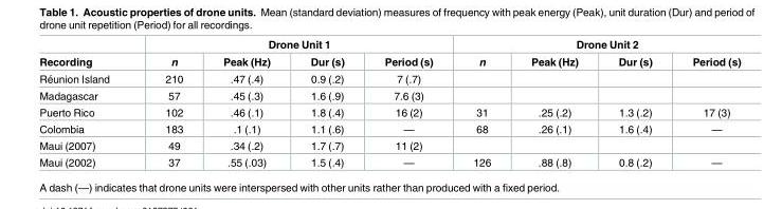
<table><thead><tr><td rowspan="2">Recording</td><td colspan="4">Drone Unit 1</td><td colspan="4">Drone Unit 2</td></tr><tr><td>n</td><td>Peak (Hz)</td><td>Dur (s)</td><td>Period (s)</td><td>n</td><td>Peak (Hz)</td><td>Dur (s)</td><td>Period (s)</td></tr></thead><tbody><tr><td>Re´union Island</td><td>210</td><td>.47 (.4)</td><td>0.9 (.2)</td><td>7 (.7)</td><td></td><td></td><td></td><td></td></tr><tr><td>Madagascar</td><td>57</td><td>.45 (.3)</td><td>1.6 (.9)</td><td>7.6 (3)</td><td></td><td></td><td></td><td></td></tr><tr><td>Puerto Rico</td><td>102</td><td>.46 (.1)</td><td>1.8 (.4)</td><td>16 (2)</td><td>31</td><td>.25 (.2)</td><td>1.3 (.2)</td><td>17 (3)</td></tr><tr><td>Colombia</td><td>183</td><td>.1 (.1)</td><td>1.1 (.6)</td><td>—</td><td>68</td><td>.26 (.1)</td><td>1.6 (.4)</td><td>—</td></tr><tr><td>Maui (2007)</td><td>49</td><td>.34 (.2)</td><td>1.7 (.7)</td><td>11 (2)</td><td></td><td></td><td></td><td></td></tr><tr><td>Maui (2002)</td><td>37</td><td>.55 (.03)</td><td>1.5 (.4)</td><td>—</td><td>126</td><td>.88 (.8)</td><td>0.8 (.2)</td><td>—</td></tr></tbody></table>